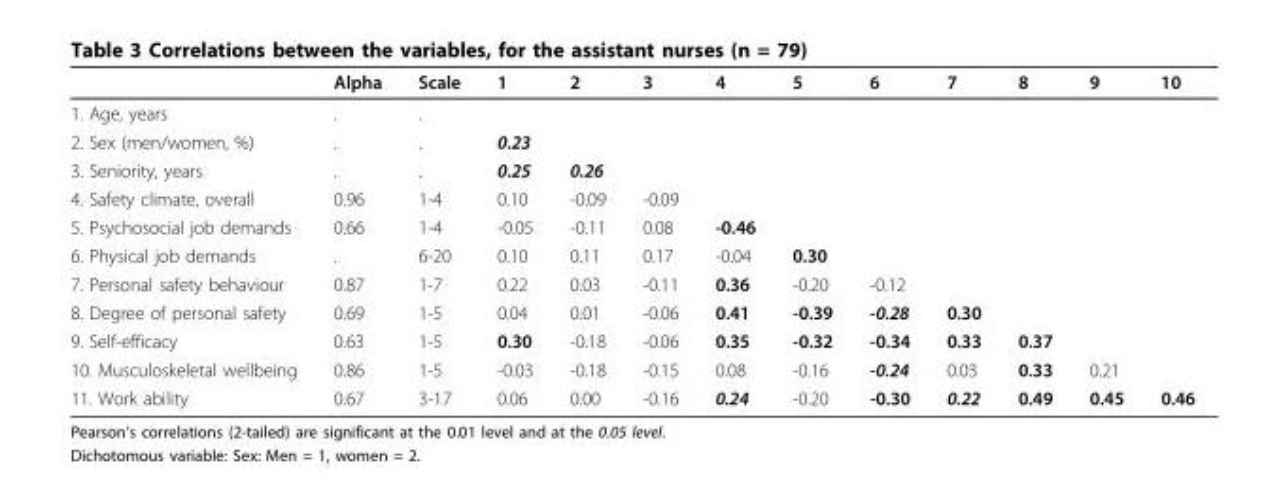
<table><thead><tr><td></td><td>Alpha</td><td>Scale</td><td>1</td><td>2</td><td>3</td><td>4</td><td>5</td><td>6</td><td>7</td><td>8</td><td>9</td><td>10</td></tr></thead><tbody><tr><td>1. Age, years</td><td>.</td><td>.</td><td></td><td></td><td></td><td></td><td></td><td></td><td></td><td></td><td></td><td></td></tr><tr><td>2. Sex (men/women, %)</td><td>.</td><td>.</td><td>0.23</td><td></td><td></td><td></td><td></td><td></td><td></td><td></td><td></td><td></td></tr><tr><td>3. Seniority, years</td><td>.</td><td>.</td><td>0.25</td><td>0.26</td><td></td><td></td><td></td><td></td><td></td><td></td><td></td><td></td></tr><tr><td>4. Safety climate, overall</td><td>0.96</td><td>1-4</td><td>0.10</td><td>-0.09</td><td>-0.09</td><td></td><td></td><td></td><td></td><td></td><td></td><td></td></tr><tr><td>5. Psychosocial job demands</td><td>0.66</td><td>1-4</td><td>-0.05</td><td>-0.11</td><td>0.08</td><td>-0.46</td><td></td><td></td><td></td><td></td><td></td><td></td></tr><tr><td>6. Physical job demands</td><td>.</td><td>6-20</td><td>0.10</td><td>0.11</td><td>0.17</td><td>-0.04</td><td>0.30</td><td></td><td></td><td></td><td></td><td></td></tr><tr><td>7. Personal safety behaviour</td><td>0.87</td><td>1-7</td><td>0.22</td><td>0.03</td><td>-0.11</td><td>0.36</td><td>-0.20</td><td>-0.12</td><td></td><td></td><td></td><td></td></tr><tr><td>8. Degree of personal safety</td><td>0.69</td><td>1-5</td><td>0.04</td><td>0.01</td><td>-0.06</td><td>0.41</td><td>-0.39</td><td>-0.28</td><td>0.30</td><td></td><td></td><td></td></tr><tr><td>9. Self-efficacy</td><td>0.63</td><td>1-5</td><td>0.30</td><td>-0.18</td><td>-0.06</td><td>0.35</td><td>-0.32</td><td>-0.34</td><td>0.33</td><td>0.37</td><td></td><td></td></tr><tr><td>10. Musculoskeletal wellbeing</td><td>0.86</td><td>1-5</td><td>-0.03</td><td>-0.18</td><td>-0.15</td><td>0.08</td><td>-0.16</td><td>-0.24</td><td>0.03</td><td>0.33</td><td>0.21</td><td></td></tr><tr><td>11. Work ability</td><td>0.67</td><td>3-17</td><td>0.06</td><td>0.00</td><td>-0.16</td><td>0.24</td><td>-0.20</td><td>-0.30</td><td>0.22</td><td>0.49</td><td>0.45</td><td>0.46</td></tr></tbody></table>